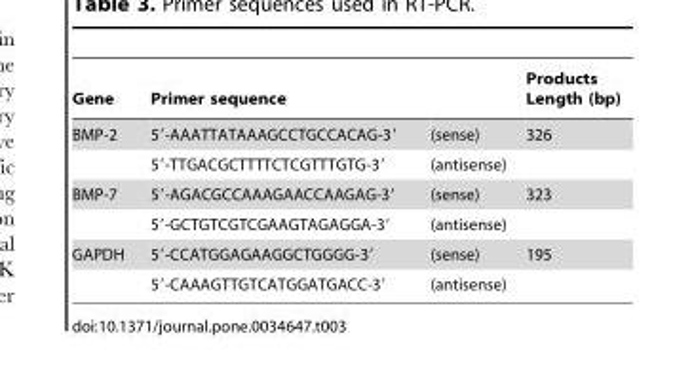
<table><thead><tr><td>Gene</td><td>Primer sequence</td><td></td><td>Products Length (bp)</td></tr></thead><tbody><tr><td rowspan="2">BMP-2</td><td>5′-AAATTATAAAGCCTGCCACAG-3′</td><td>(sense)</td><td>326</td></tr><tr><td>5′-TTGACGCTTTTCTCGTTTGTG-3′</td><td>(antisense)</td><td></td></tr><tr><td rowspan="2">BMP-7</td><td>5′-AGACGCCAAAGAACCAAGAG-3′</td><td>(sense)</td><td>323</td></tr><tr><td>5′-GCTGTCGTCGAAGTAGAGGA-3′</td><td>(antisense)</td><td></td></tr><tr><td rowspan="2">GAPDH</td><td>5′-CCATGGAGAAGGCTGGGG-3′</td><td>(sense)</td><td>195</td></tr><tr><td>5′-CAAAGTTGTCATGGATGACC-3′</td><td>(antisense)</td><td></td></tr></tbody></table>